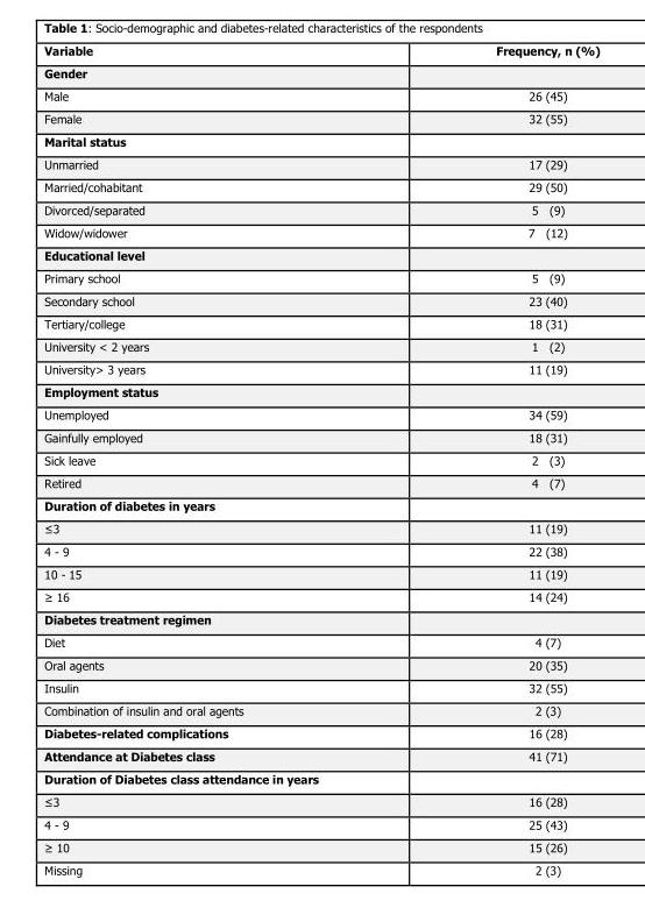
<table><thead><tr><td>Variable</td><td>Frequency, n (%)</td></tr></thead><tbody><tr><td colspan="2">Gender</td></tr><tr><td>Male</td><td>26 (45)</td></tr><tr><td>Female</td><td>32 (55)</td></tr><tr><td colspan="2">Marital status</td></tr><tr><td>Unmarried</td><td>17 (29)</td></tr><tr><td>Married/cohabitant</td><td>29 (50)</td></tr><tr><td>Divorced/separated</td><td>5 (9)</td></tr><tr><td>Widow/widower</td><td>7 (12)</td></tr><tr><td colspan="2">Educational level</td></tr><tr><td>Primary school</td><td>5 (9)</td></tr><tr><td>Secondary school</td><td>23 (40)</td></tr><tr><td>Tertiary/college</td><td>18 (31)</td></tr><tr><td>University &lt; 2 years</td><td>1 (2)</td></tr><tr><td>University&gt; 3 years</td><td>11 (19)</td></tr><tr><td colspan="2">Employment status</td></tr><tr><td>Unemployed</td><td>34 (59)</td></tr><tr><td>Gainfully employed</td><td>18 (31)</td></tr><tr><td>Sick leave</td><td>2 (3)</td></tr><tr><td>Retired</td><td>4 (7)</td></tr><tr><td colspan="2">Duration of diabetes in years</td></tr><tr><td>≤3</td><td>11 (19)</td></tr><tr><td>4 - 9</td><td>22 (38)</td></tr><tr><td>10 - 15</td><td>11 (19)</td></tr><tr><td>≥ 16</td><td>14 (24)</td></tr><tr><td colspan="2">Diabetes treatment regimen</td></tr><tr><td>Diet</td><td>4 (7)</td></tr><tr><td>Oral agents</td><td>20 (35)</td></tr><tr><td>Insulin</td><td>32 (55)</td></tr><tr><td>Combination of insulin and oral agents</td><td>2 (3)</td></tr><tr><td>Diabetes-related complications</td><td>16 (28)</td></tr><tr><td>Attendance at Diabetes class</td><td>41 (71)</td></tr><tr><td colspan="2">Duration of Diabetes class attendance in years</td></tr><tr><td>≤3</td><td>16 (28)</td></tr><tr><td>4 - 9</td><td>25 (43)</td></tr><tr><td>≥ 10</td><td>15 (26)</td></tr><tr><td>Missing</td><td>2 (3)</td></tr></tbody></table>